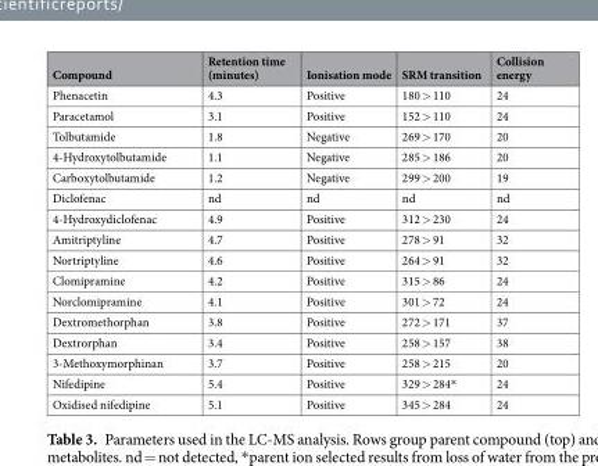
<table><thead><tr><td>Compound</td><td>Retention time (minutes)</td><td>Ionisation mode</td><td>SRM transition</td><td>Collision energy</td></tr></thead><tbody><tr><td>Phenacetin</td><td>4.3</td><td>Positive</td><td>180 &gt; 110</td><td>24</td></tr><tr><td>Paracetamol</td><td>3.1</td><td>Positive</td><td>152 &gt; 110</td><td>24</td></tr><tr><td>Tolbutamide</td><td>1.8</td><td>Negative</td><td>269 &gt; 170</td><td>20</td></tr><tr><td>4-Hydroxytolbutamide</td><td>1.1</td><td>Negative</td><td>285 &gt; 186</td><td>20</td></tr><tr><td>Carboxytolbutamide</td><td>1.2</td><td>Negative</td><td>299 &gt; 200</td><td>19</td></tr><tr><td>Diclofenac</td><td>nd</td><td>nd</td><td>nd</td><td>nd</td></tr><tr><td>4-Hydroxydiclofenac</td><td>4.9</td><td>Positive</td><td>312 &gt; 230</td><td>24</td></tr><tr><td>Amitriptyline</td><td>4.7</td><td>Positive</td><td>278 &gt; 91</td><td>32</td></tr><tr><td>Nortriptyline</td><td>4.6</td><td>Positive</td><td>264 &gt; 91</td><td>32</td></tr><tr><td>Clomipramine</td><td>4.2</td><td>Positive</td><td>315 &gt; 86</td><td>24</td></tr><tr><td>Norclomipramine</td><td>4.1</td><td>Positive</td><td>301 &gt; 72</td><td>24</td></tr><tr><td>Dextromethorphan</td><td>3.8</td><td>Positive</td><td>272 &gt; 171</td><td>37</td></tr><tr><td>Dextrorphan</td><td>3.4</td><td>Positive</td><td>258 &gt; 157</td><td>38</td></tr><tr><td>3-Methoxymorphinan</td><td>3.7</td><td>Positive</td><td>258 &gt; 215</td><td>20</td></tr><tr><td>Nifedipine</td><td>5.4</td><td>Positive</td><td>329 &gt; 284*</td><td>24</td></tr><tr><td>Oxidised nifedipine</td><td>5.1</td><td>Positive</td><td>345 &gt; 284</td><td>24</td></tr></tbody></table>